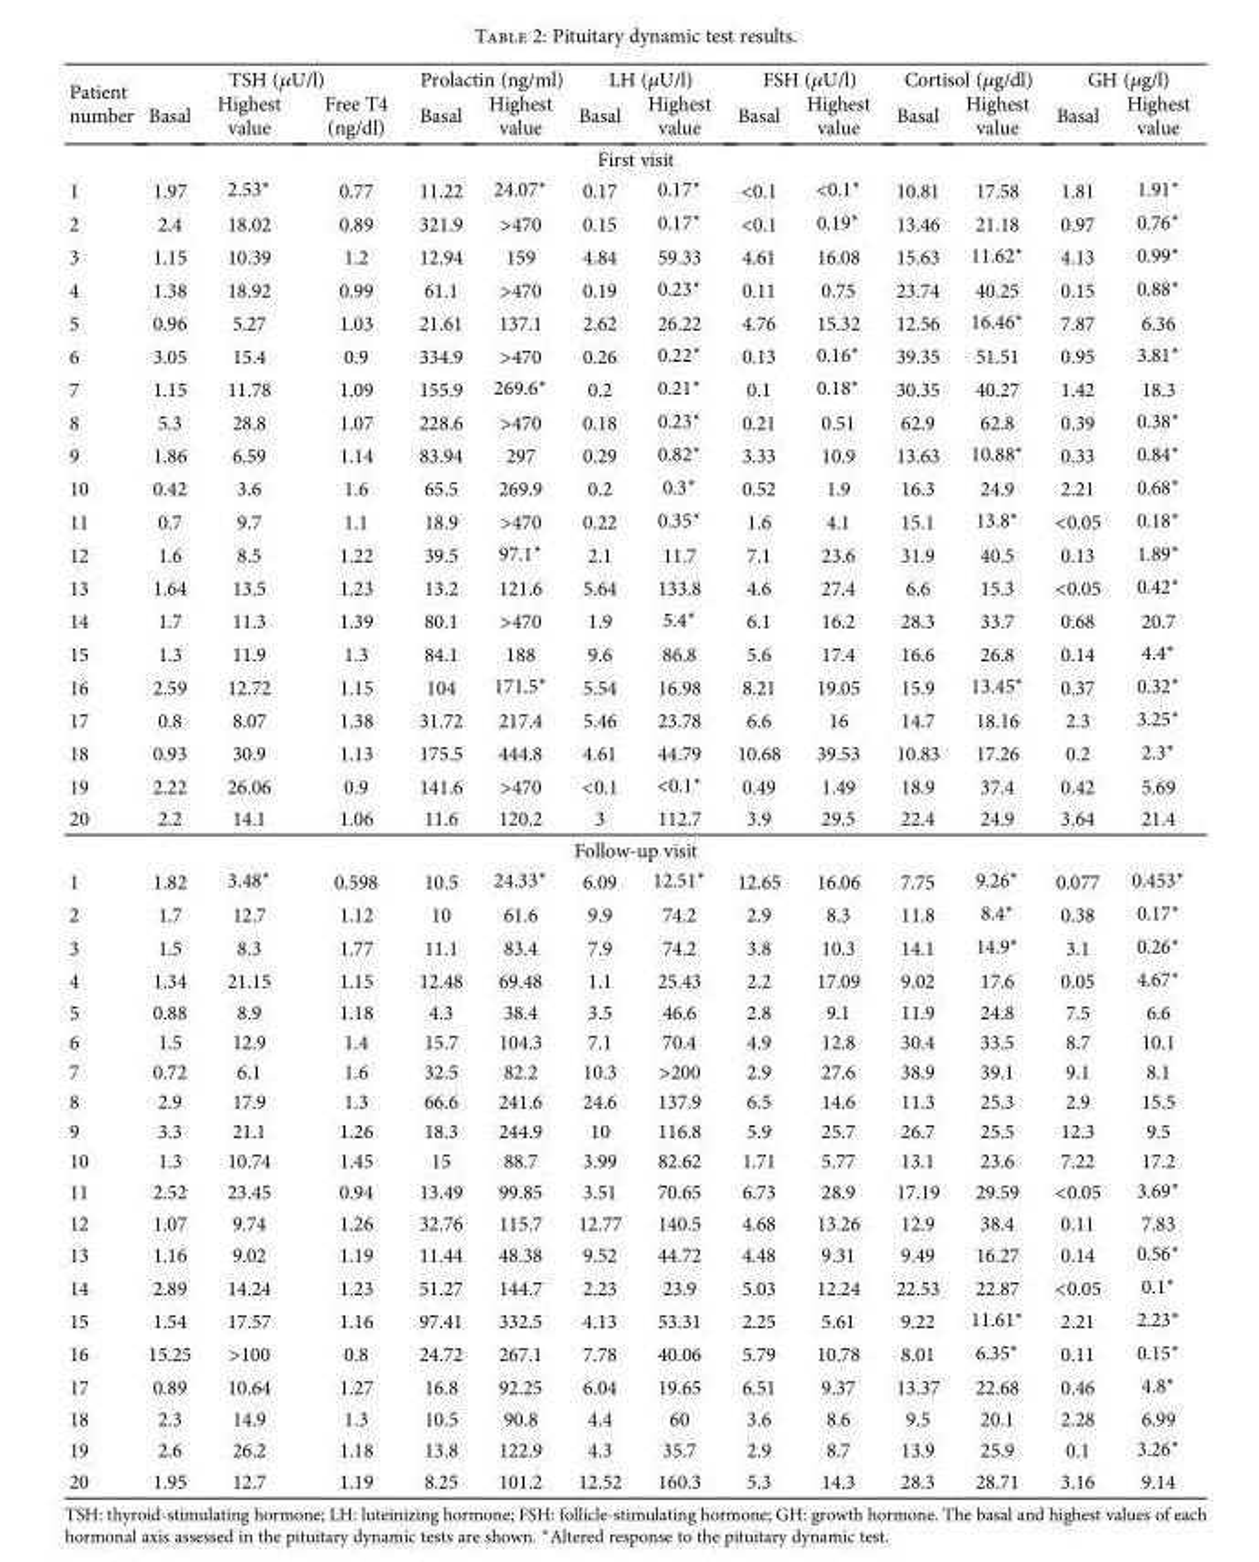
<table><thead><tr><td rowspan="2">Patient number</td><td colspan="3">TSH (μU/l)</td><td colspan="2">Prolactin (ng/ml)</td><td colspan="2">LH (μU/l)</td><td colspan="2">FSH (μU/l)</td><td colspan="2">Cortisol (μg/dl)</td><td colspan="2">GH (μg/l)</td></tr><tr><td>Basal</td><td>Highest value</td><td>Free T4 (ng/dl)</td><td>Basal</td><td>Highest value</td><td>Basal</td><td>Highest value</td><td>Basal</td><td>Highest value</td><td>Basal</td><td>Highest value</td><td>Basal</td><td>Highest value</td></tr></thead><tbody><tr><td colspan="14">First visit</td></tr><tr><td>1</td><td>1.97</td><td>2.53∗</td><td>0.77</td><td>11.22</td><td>24.07∗</td><td>0.17</td><td>0.17∗</td><td>&lt;0.1</td><td>&lt;0.1∗</td><td>10.81</td><td>17.58</td><td>1.81</td><td>1.91∗</td></tr><tr><td>2</td><td>2.4</td><td>18.02</td><td>0.89</td><td>321.9</td><td>&gt;470</td><td>0.15</td><td>0.17∗</td><td>&lt;0.1</td><td>0.19∗</td><td>13.46</td><td>21.18</td><td>0.97</td><td>0.76∗</td></tr><tr><td>3</td><td>1.15</td><td>10.39</td><td>1.2</td><td>12.94</td><td>159</td><td>4.84</td><td>59.33</td><td>4.61</td><td>16.08</td><td>15.63</td><td>11.62∗</td><td>4.13</td><td>0.99∗</td></tr><tr><td>4</td><td>1.38</td><td>18.92</td><td>0.99</td><td>61.1</td><td>&gt;470</td><td>0.19</td><td>0.23∗</td><td>0.11</td><td>0.75</td><td>23.74</td><td>40.25</td><td>0.15</td><td>0.88∗</td></tr><tr><td>5</td><td>0.96</td><td>5.27</td><td>1.03</td><td>21.61</td><td>137.1</td><td>2.62</td><td>26.22</td><td>4.76</td><td>15.32</td><td>12.56</td><td>16.46∗</td><td>7.87</td><td>6.36</td></tr><tr><td>6</td><td>3.05</td><td>15.4</td><td>0.9</td><td>334.9</td><td>&gt;470</td><td>0.26</td><td>0.22∗</td><td>0.13</td><td>0.16∗</td><td>39.35</td><td>51.51</td><td>0.95</td><td>3.81∗</td></tr><tr><td>7</td><td>1.15</td><td>11.78</td><td>1.09</td><td>155.9</td><td>269.6∗</td><td>0.2</td><td>0.21∗</td><td>0.1</td><td>0.18∗</td><td>30.35</td><td>40.27</td><td>1.42</td><td>18.3</td></tr><tr><td>8</td><td>5.3</td><td>28.8</td><td>1.07</td><td>228.6</td><td>&gt;470</td><td>0.18</td><td>0.23∗</td><td>0.21</td><td>0.51</td><td>62.9</td><td>62.8</td><td>0.39</td><td>0.38∗</td></tr><tr><td>9</td><td>1.86</td><td>6.59</td><td>1.14</td><td>83.94</td><td>297</td><td>0.29</td><td>0.82∗</td><td>3.33</td><td>10.9</td><td>13.63</td><td>10.88∗</td><td>0.33</td><td>0.84∗</td></tr><tr><td>10</td><td>0.42</td><td>3.6</td><td>1.6</td><td>65.5</td><td>269.9</td><td>0.2</td><td>0.3∗</td><td>0.52</td><td>1.9</td><td>16.3</td><td>24.9</td><td>2.21</td><td>0.68∗</td></tr><tr><td>11</td><td>0.7</td><td>9.7</td><td>1.1</td><td>18.9</td><td>&gt;470</td><td>0.22</td><td>0.35∗</td><td>1.6</td><td>4.1</td><td>15.1</td><td>13.8∗</td><td>&lt;0.05</td><td>0.18∗</td></tr><tr><td>12</td><td>1.6</td><td>8.5</td><td>1.22</td><td>39.5</td><td>97.1∗</td><td>2.1</td><td>11.7</td><td>7.1</td><td>23.6</td><td>31.9</td><td>40.5</td><td>0.13</td><td>1.89∗</td></tr><tr><td>13</td><td>1.64</td><td>13.5</td><td>1.23</td><td>13.2</td><td>121.6</td><td>5.64</td><td>133.8</td><td>4.6</td><td>27.4</td><td>6.6</td><td>15.3</td><td>&lt;0.05</td><td>0.42∗</td></tr><tr><td>14</td><td>1.7</td><td>11.3</td><td>1.39</td><td>80.1</td><td>&gt;470</td><td>1.9</td><td>5.4∗</td><td>6.1</td><td>16.2</td><td>28.3</td><td>33.7</td><td>0.68</td><td>20.7</td></tr><tr><td>15</td><td>1.3</td><td>11.9</td><td>1.3</td><td>84.1</td><td>188</td><td>9.6</td><td>86.8</td><td>5.6</td><td>17.4</td><td>16.6</td><td>26.8</td><td>0.14</td><td>4.4∗</td></tr><tr><td>16</td><td>2.59</td><td>12.72</td><td>1.15</td><td>104</td><td>171.5∗</td><td>5.54</td><td>16.98</td><td>8.21</td><td>19.05</td><td>15.9</td><td>13.45∗</td><td>0.37</td><td>0.32∗</td></tr><tr><td>17</td><td>0.8</td><td>8.07</td><td>1.38</td><td>31.72</td><td>217.4</td><td>5.46</td><td>23.78</td><td>6.6</td><td>16</td><td>14.7</td><td>18.16</td><td>2.3</td><td>3.25∗</td></tr><tr><td>18</td><td>0.93</td><td>30.9</td><td>1.13</td><td>175.5</td><td>444.8</td><td>4.61</td><td>44.79</td><td>10.68</td><td>39.53</td><td>10.83</td><td>17.26</td><td>0.2</td><td>2.3∗</td></tr><tr><td>19</td><td>2.22</td><td>26.06</td><td>0.9</td><td>141.6</td><td>&gt;470</td><td>&lt;0.1</td><td>&lt;0.1∗</td><td>0.49</td><td>1.49</td><td>18.9</td><td>37.4</td><td>0.42</td><td>5.69</td></tr><tr><td>20</td><td>2.2</td><td>14.1</td><td>1.06</td><td>11.6</td><td>120.2</td><td>3</td><td>112.7</td><td>3.9</td><td>29.5</td><td>22.4</td><td>24.9</td><td>3.64</td><td>21.4</td></tr><tr><td colspan="14">Follow-up visit</td></tr><tr><td>1</td><td>1.82</td><td>3.48∗</td><td>0.598</td><td>10.5</td><td>24.33∗</td><td>6.09</td><td>12.51∗</td><td>12.65</td><td>16.06</td><td>7.75</td><td>9.26∗</td><td>0.077</td><td>0.453∗</td></tr><tr><td>2</td><td>1.7</td><td>12.7</td><td>1.12</td><td>10</td><td>61.6</td><td>9.9</td><td>74.2</td><td>2.9</td><td>8.3</td><td>11.8</td><td>8.4∗</td><td>0.38</td><td>0.17∗</td></tr><tr><td>3</td><td>1.5</td><td>8.3</td><td>1.77</td><td>11.1</td><td>83.4</td><td>7.9</td><td>74.2</td><td>3.8</td><td>10.3</td><td>14.1</td><td>14.9∗</td><td>3.1</td><td>0.26∗</td></tr><tr><td>4</td><td>1.34</td><td>21.15</td><td>1.15</td><td>12.48</td><td>69.48</td><td>1.1</td><td>25.43</td><td>2.2</td><td>17.09</td><td>9.02</td><td>17.6</td><td>0.05</td><td>4.67∗</td></tr><tr><td>5</td><td>0.88</td><td>8.9</td><td>1.18</td><td>4.3</td><td>38.4</td><td>3.5</td><td>46.6</td><td>2.8</td><td>9.1</td><td>11.9</td><td>24.8</td><td>7.5</td><td>6.6</td></tr><tr><td>6</td><td>1.5</td><td>12.9</td><td>1.4</td><td>15.7</td><td>104.3</td><td>7.1</td><td>70.4</td><td>4.9</td><td>12.8</td><td>30.4</td><td>33.5</td><td>8.7</td><td>10.1</td></tr><tr><td>7</td><td>0.72</td><td>6.1</td><td>1.6</td><td>32.5</td><td>82.2</td><td>10.3</td><td>&gt;200</td><td>2.9</td><td>27.6</td><td>38.9</td><td>39.1</td><td>9.1</td><td>8.1</td></tr><tr><td>8</td><td>2.9</td><td>17.9</td><td>1.3</td><td>66.6</td><td>241.6</td><td>24.6</td><td>137.9</td><td>6.5</td><td>14.6</td><td>11.3</td><td>25.3</td><td>2.9</td><td>15.5</td></tr><tr><td>9</td><td>3.3</td><td>21.1</td><td>1.26</td><td>18.3</td><td>244.9</td><td>10</td><td>116.8</td><td>5.9</td><td>25.7</td><td>26.7</td><td>25.5</td><td>12.3</td><td>9.5</td></tr><tr><td>10</td><td>1.3</td><td>10.74</td><td>1.45</td><td>15</td><td>88.7</td><td>3.99</td><td>82.62</td><td>1.71</td><td>5.77</td><td>13.1</td><td>23.6</td><td>7.22</td><td>17.2</td></tr><tr><td>11</td><td>2.52</td><td>23.45</td><td>0.94</td><td>13.49</td><td>99.85</td><td>3.51</td><td>70.65</td><td>6.73</td><td>28.9</td><td>17.19</td><td>29.59</td><td>&lt;0.05</td><td>3.69∗</td></tr><tr><td>12</td><td>1.07</td><td>9.74</td><td>1.26</td><td>32.76</td><td>115.7</td><td>12.77</td><td>140.5</td><td>4.68</td><td>13.26</td><td>12.9</td><td>38.4</td><td>0.11</td><td>7.83</td></tr><tr><td>13</td><td>1.16</td><td>9.02</td><td>1.19</td><td>11.44</td><td>48.38</td><td>9.52</td><td>44.72</td><td>4.48</td><td>9.31</td><td>9.49</td><td>16.27</td><td>0.14</td><td>0.56∗</td></tr><tr><td>14</td><td>2.89</td><td>14.24</td><td>1.23</td><td>51.27</td><td>144.7</td><td>2.23</td><td>23.9</td><td>5.03</td><td>12.24</td><td>22.53</td><td>22.87</td><td>&lt;0.05</td><td>0.1∗</td></tr><tr><td>15</td><td>1.54</td><td>17.57</td><td>1.16</td><td>97.41</td><td>332.5</td><td>4.13</td><td>53.31</td><td>2.25</td><td>5.61</td><td>9.22</td><td>11.61∗</td><td>2.21</td><td>2.23∗</td></tr><tr><td>16</td><td>15.25</td><td>&gt;100</td><td>0.8</td><td>24.72</td><td>267.1</td><td>7.78</td><td>40.06</td><td>5.79</td><td>10.78</td><td>8.01</td><td>6.35∗</td><td>0.11</td><td>0.15∗</td></tr><tr><td>17</td><td>0.89</td><td>10.64</td><td>1.27</td><td>16.8</td><td>92.25</td><td>6.04</td><td>19.65</td><td>6.51</td><td>9.37</td><td>13.37</td><td>22.68</td><td>0.46</td><td>4.8∗</td></tr><tr><td>18</td><td>2.3</td><td>14.9</td><td>1.3</td><td>10.5</td><td>90.8</td><td>4.4</td><td>60</td><td>3.6</td><td>8.6</td><td>9.5</td><td>20.1</td><td>2.28</td><td>6.99</td></tr><tr><td>19</td><td>2.6</td><td>26.2</td><td>1.18</td><td>13.8</td><td>122.9</td><td>4.3</td><td>35.7</td><td>2.9</td><td>8.7</td><td>13.9</td><td>25.9</td><td>0.1</td><td>3.26∗</td></tr><tr><td>20</td><td>1.95</td><td>12.7</td><td>1.19</td><td>8.25</td><td>101.2</td><td>12.52</td><td>160.3</td><td>5.3</td><td>14.3</td><td>28.3</td><td>28.71</td><td>3.16</td><td>9.14</td></tr></tbody></table>